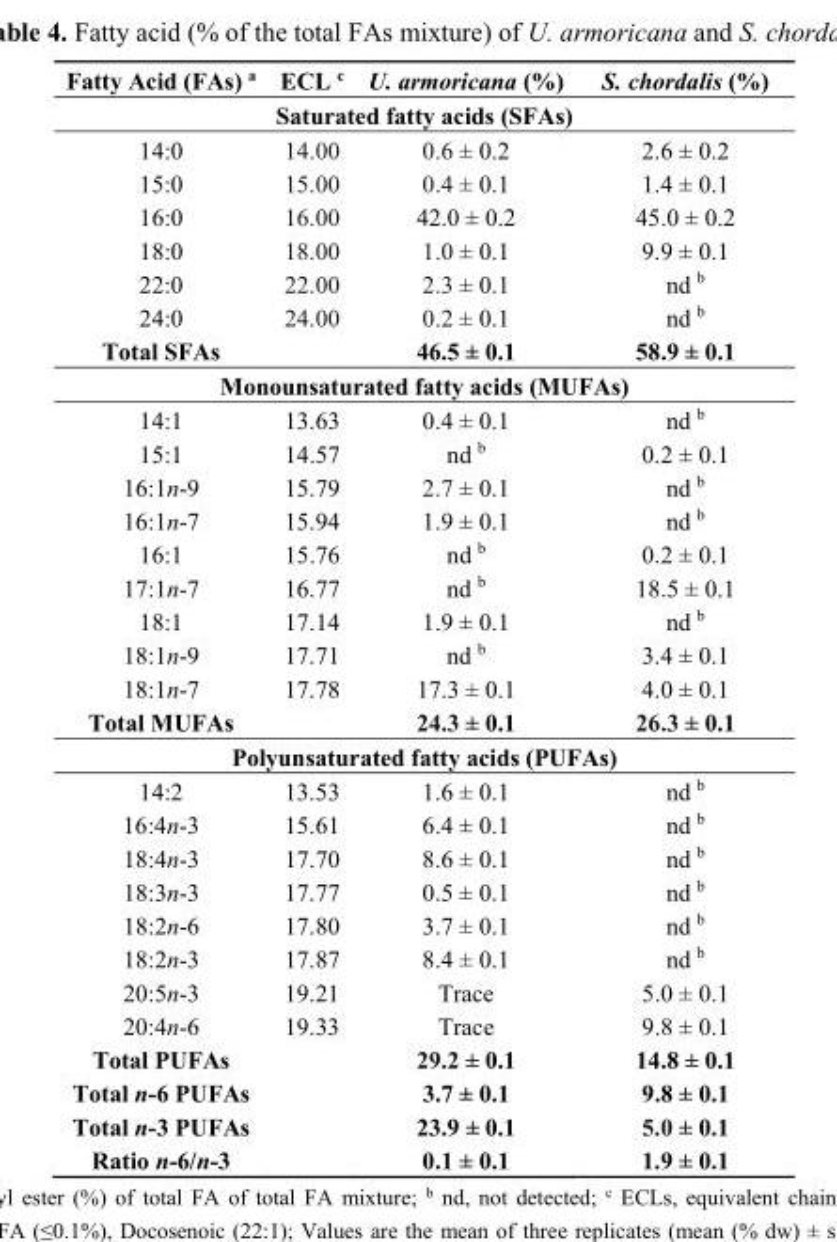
<table><thead><tr><td>Fatty Acid (FAs) <sup>a</sup></td><td>ECL <sup>c</sup></td><td>U. armoricana (%)</td><td>S. chordalis (%)</td></tr></thead><tbody><tr><td colspan="4">Saturated fatty acids (SFAs)</td></tr><tr><td>14:0</td><td>14.00</td><td>0.6 ± 0.2</td><td>2.6 ± 0.2</td></tr><tr><td>15:0</td><td>15.00</td><td>0.4 ± 0.1</td><td>1.4 ± 0.1</td></tr><tr><td>16:0</td><td>16.00</td><td>42.0 ± 0.2</td><td>45.0 ± 0.2</td></tr><tr><td>18:0</td><td>18.00</td><td>1.0 ± 0.1</td><td>9.9 ± 0.1</td></tr><tr><td>22:0</td><td>22.00</td><td>2.3 ± 0.1</td><td>nd <sup>b</sup></td></tr><tr><td>24:0</td><td>24.00</td><td>0.2 ± 0.1</td><td>nd <sup>b</sup></td></tr><tr><td>Total SFAs</td><td></td><td>46.5 ± 0.1</td><td>58.9 ± 0.1</td></tr><tr><td colspan="4">Monounsaturated fatty acids (MUFAs)</td></tr><tr><td>14:1</td><td>13.63</td><td>0.4 ± 0.1</td><td>nd <sup>b</sup></td></tr><tr><td>15:1</td><td>14.57</td><td>nd <sup>b</sup></td><td>0.2 ± 0.1</td></tr><tr><td>16:1n-9</td><td>15.79</td><td>2.7 ± 0.1</td><td>nd <sup>b</sup></td></tr><tr><td>16:1n-7</td><td>15.94</td><td>1.9 ± 0.1</td><td>nd <sup>b</sup></td></tr><tr><td>16:1</td><td>15.76</td><td>nd <sup>b</sup></td><td>0.2 ± 0.1</td></tr><tr><td>17:1n-7</td><td>16.77</td><td>nd <sup>b</sup></td><td>18.5 ± 0.1</td></tr><tr><td>18:1</td><td>17.14</td><td>1.9 ± 0.1</td><td>nd <sup>b</sup></td></tr><tr><td>18:1n-9</td><td>17.71</td><td>nd <sup>b</sup></td><td>3.4 ± 0.1</td></tr><tr><td>18:1n-7</td><td>17.78</td><td>17.3 ± 0.1</td><td>4.0 ± 0.1</td></tr><tr><td>Total MUFAs</td><td></td><td>24.3 ± 0.1</td><td>26.3 ± 0.1</td></tr><tr><td colspan="4">Polyunsaturated fatty acids (PUFAs)</td></tr><tr><td>14:2</td><td>13.53</td><td>1.6 ± 0.1</td><td>nd <sup>b</sup></td></tr><tr><td>16:4n-3</td><td>15.61</td><td>6.4 ± 0.1</td><td>nd <sup>b</sup></td></tr><tr><td>18:4n-3</td><td>17.70</td><td>8.6 ± 0.1</td><td>nd <sup>b</sup></td></tr><tr><td>18:3n-3</td><td>17.77</td><td>0.5 ± 0.1</td><td>nd <sup>b</sup></td></tr><tr><td>18:2n-6</td><td>17.80</td><td>3.7 ± 0.1</td><td>nd <sup>b</sup></td></tr><tr><td>18:2n-3</td><td>17.87</td><td>8.4 ± 0.1</td><td>nd <sup>b</sup></td></tr><tr><td>20:5n-3</td><td>19.21</td><td>Trace</td><td>5.0 ± 0.1</td></tr><tr><td>20:4n-6</td><td>19.33</td><td>Trace</td><td>9.8 ± 0.1</td></tr><tr><td>Total PUFAs</td><td></td><td>29.2 ± 0.1</td><td>14.8 ± 0.1</td></tr><tr><td>Total n-6 PUFAs</td><td></td><td>3.7 ± 0.1</td><td>9.8 ± 0.1</td></tr><tr><td>Total n-3 PUFAs</td><td></td><td>23.9 ± 0.1</td><td>5.0 ± 0.1</td></tr><tr><td>Ratio n-6/n-3</td><td></td><td>0.1 ± 0.1</td><td>1.9 ± 0.1</td></tr></tbody></table>